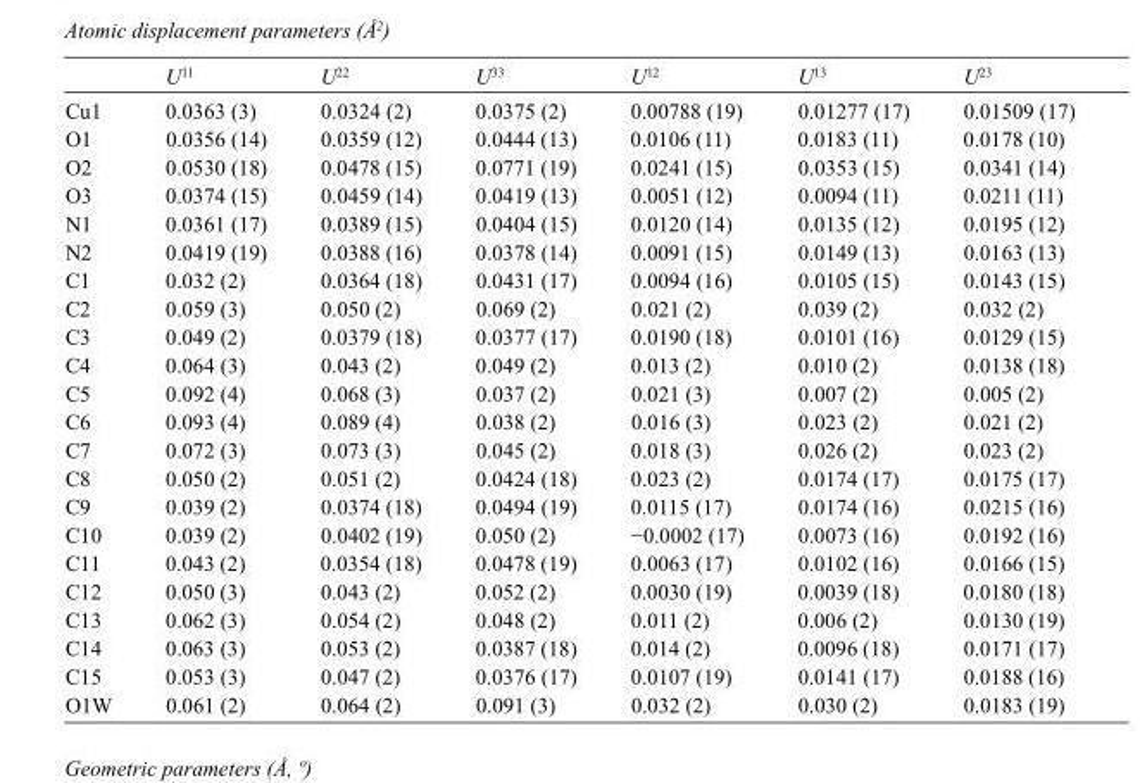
<table><thead><tr><td></td><td>U<sup>11</sup></td><td>U<sup>22</sup></td><td>U<sup>33</sup></td><td>U<sup>12</sup></td><td>U<sup>13</sup></td><td>U<sup>23</sup></td></tr></thead><tbody><tr><td>Cu1</td><td>0.0363 (3)</td><td>0.0324 (2)</td><td>0.0375 (2)</td><td>0.00788 (19)</td><td>0.01277 (17)</td><td>0.01509 (17)</td></tr><tr><td>O1</td><td>0.0356 (14)</td><td>0.0359 (12)</td><td>0.0444 (13)</td><td>0.0106 (11)</td><td>0.0183 (11)</td><td>0.0178 (10)</td></tr><tr><td>O2</td><td>0.0530 (18)</td><td>0.0478 (15)</td><td>0.0771 (19)</td><td>0.0241 (15)</td><td>0.0353 (15)</td><td>0.0341 (14)</td></tr><tr><td>O3</td><td>0.0374 (15)</td><td>0.0459 (14)</td><td>0.0419 (13)</td><td>0.0051 (12)</td><td>0.0094 (11)</td><td>0.0211 (11)</td></tr><tr><td>N1</td><td>0.0361 (17)</td><td>0.0389 (15)</td><td>0.0404 (15)</td><td>0.0120 (14)</td><td>0.0135 (12)</td><td>0.0195 (12)</td></tr><tr><td>N2</td><td>0.0419 (19)</td><td>0.0388 (16)</td><td>0.0378 (14)</td><td>0.0091 (15)</td><td>0.0149 (13)</td><td>0.0163 (13)</td></tr><tr><td>C1</td><td>0.032 (2)</td><td>0.0364 (18)</td><td>0.0431 (17)</td><td>0.0094 (16)</td><td>0.0105 (15)</td><td>0.0143 (15)</td></tr><tr><td>C2</td><td>0.059 (3)</td><td>0.050 (2)</td><td>0.069 (2)</td><td>0.021 (2)</td><td>0.039 (2)</td><td>0.032 (2)</td></tr><tr><td>C3</td><td>0.049 (2)</td><td>0.0379 (18)</td><td>0.0377 (17)</td><td>0.0190 (18)</td><td>0.0101 (16)</td><td>0.0129 (15)</td></tr><tr><td>C4</td><td>0.064 (3)</td><td>0.043 (2)</td><td>0.049 (2)</td><td>0.013 (2)</td><td>0.010 (2)</td><td>0.0138 (18)</td></tr><tr><td>C5</td><td>0.092 (4)</td><td>0.068 (3)</td><td>0.037 (2)</td><td>0.021 (3)</td><td>0.007 (2)</td><td>0.005 (2)</td></tr><tr><td>C6</td><td>0.093 (4)</td><td>0.089 (4)</td><td>0.038 (2)</td><td>0.016 (3)</td><td>0.023 (2)</td><td>0.021 (2)</td></tr><tr><td>C7</td><td>0.072 (3)</td><td>0.073 (3)</td><td>0.045 (2)</td><td>0.018 (3)</td><td>0.026 (2)</td><td>0.023 (2)</td></tr><tr><td>C8</td><td>0.050 (2)</td><td>0.051 (2)</td><td>0.0424 (18)</td><td>0.023 (2)</td><td>0.0174 (17)</td><td>0.0175 (17)</td></tr><tr><td>C9</td><td>0.039 (2)</td><td>0.0374 (18)</td><td>0.0494 (19)</td><td>0.0115 (17)</td><td>0.0174 (16)</td><td>0.0215 (16)</td></tr><tr><td>C10</td><td>0.039 (2)</td><td>0.0402 (19)</td><td>0.050 (2)</td><td>−0.0002 (17)</td><td>0.0073 (16)</td><td>0.0192 (16)</td></tr><tr><td>C11</td><td>0.043 (2)</td><td>0.0354 (18)</td><td>0.0478 (19)</td><td>0.0063 (17)</td><td>0.0102 (16)</td><td>0.0166 (15)</td></tr><tr><td>C12</td><td>0.050 (3)</td><td>0.043 (2)</td><td>0.052 (2)</td><td>0.0030 (19)</td><td>0.0039 (18)</td><td>0.0180 (18)</td></tr><tr><td>C13</td><td>0.062 (3)</td><td>0.054 (2)</td><td>0.048 (2)</td><td>0.011 (2)</td><td>0.006 (2)</td><td>0.0130 (19)</td></tr><tr><td>C14</td><td>0.063 (3)</td><td>0.053 (2)</td><td>0.0387 (18)</td><td>0.014 (2)</td><td>0.0096 (18)</td><td>0.0171 (17)</td></tr><tr><td>C15</td><td>0.053 (3)</td><td>0.047 (2)</td><td>0.0376 (17)</td><td>0.0107 (19)</td><td>0.0141 (17)</td><td>0.0188 (16)</td></tr><tr><td>O1W</td><td>0.061 (2)</td><td>0.064 (2)</td><td>0.091 (3)</td><td>0.032 (2)</td><td>0.030 (2)</td><td>0.0183 (19)</td></tr></tbody></table>